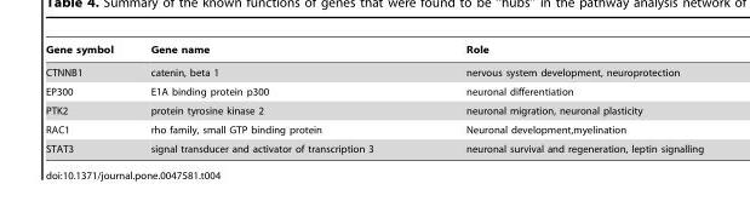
<table><thead><tr><td>Gene symbol</td><td>Gene name</td><td>Role</td></tr></thead><tbody><tr><td>CTNNB1</td><td>catenin, beta 1</td><td>nervous system development, neuroprotection</td></tr><tr><td>EP300</td><td>E1A binding protein p300</td><td>neuronal differentiation</td></tr><tr><td>PTK2</td><td>protein tyrosine kinase 2</td><td>neuronal migration, neuronal plasticity</td></tr><tr><td>RAC1</td><td>rho family, small GTP binding protein</td><td>Neuronal development,myelination</td></tr><tr><td>STAT3</td><td>signal transducer and activator of transcription 3</td><td>neuronal survival and regeneration, leptin signalling</td></tr></tbody></table>